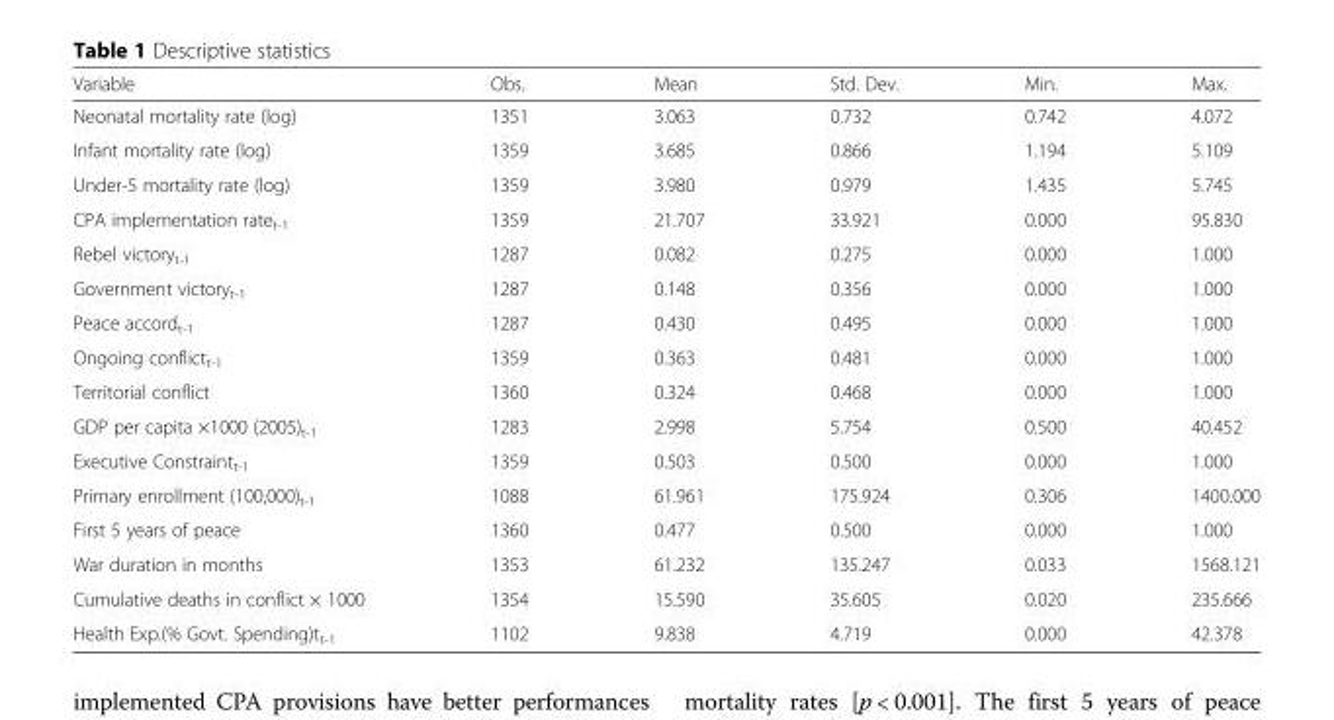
<table><thead><tr><td>Variable</td><td>Obs.</td><td>Mean</td><td>Std. Dev.</td><td>Min.</td><td>Max.</td></tr></thead><tbody><tr><td>Neonatal mortality rate (log)</td><td>1351</td><td>3.063</td><td>0.732</td><td>0.742</td><td>4.072</td></tr><tr><td>Infant mortality rate (log)</td><td>1359</td><td>3.685</td><td>0.866</td><td>1.194</td><td>5.109</td></tr><tr><td>Under-5 mortality rate (log)</td><td>1359</td><td>3.980</td><td>0.979</td><td>1.435</td><td>5.745</td></tr><tr><td>CPA implementation rate<sub>t-1</sub></td><td>1359</td><td>21.707</td><td>33.921</td><td>0.000</td><td>95.830</td></tr><tr><td>Rebel victory<sub>t-1</sub></td><td>1287</td><td>0.082</td><td>0.275</td><td>0.000</td><td>1.000</td></tr><tr><td>Government victory<sub>t-1</sub></td><td>1287</td><td>0.148</td><td>0.356</td><td>0.000</td><td>1.000</td></tr><tr><td>Peace accord<sub>t-1</sub></td><td>1287</td><td>0.430</td><td>0.495</td><td>0.000</td><td>1.000</td></tr><tr><td>Ongoing conflict<sub>t-1</sub></td><td>1359</td><td>0.363</td><td>0.481</td><td>0.000</td><td>1.000</td></tr><tr><td>Territorial conflict</td><td>1360</td><td>0.324</td><td>0.468</td><td>0.000</td><td>1.000</td></tr><tr><td>GDP per capita ×1000 (2005)<sub>t-1</sub></td><td>1283</td><td>2.998</td><td>5.754</td><td>0.500</td><td>40.452</td></tr><tr><td>Executive Constraint<sub>t-1</sub></td><td>1359</td><td>0.503</td><td>0.500</td><td>0.000</td><td>1.000</td></tr><tr><td>Primary enrollment (100,000)<sub>t-1</sub></td><td>1088</td><td>61.961</td><td>175.924</td><td>0.306</td><td>1400.000</td></tr><tr><td>First 5 years of peace</td><td>1360</td><td>0.477</td><td>0.500</td><td>0.000</td><td>1.000</td></tr><tr><td>War duration in months</td><td>1353</td><td>61.232</td><td>135.247</td><td>0.033</td><td>1568.121</td></tr><tr><td>Cumulative deaths in conflict × 1000</td><td>1354</td><td>15.590</td><td>35.605</td><td>0.020</td><td>235.666</td></tr><tr><td>Health Exp.(% Govt. Spending)t<sub>t-1</sub></td><td>1102</td><td>9.838</td><td>4.719</td><td>0.000</td><td>42.378</td></tr></tbody></table>